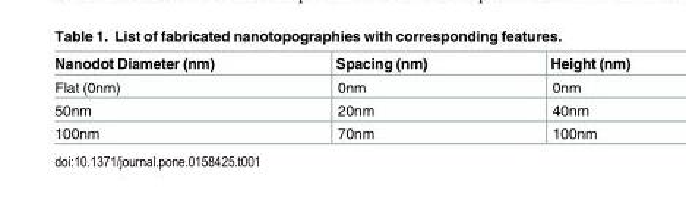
<table><thead><tr><td>Nanodot Diameter (nm)</td><td>Spacing (nm)</td><td>Height (nm)</td></tr></thead><tbody><tr><td>Flat (0nm)</td><td>0nm</td><td>0nm</td></tr><tr><td>50nm</td><td>20nm</td><td>40nm</td></tr><tr><td>100nm</td><td>70nm</td><td>100nm</td></tr></tbody></table>